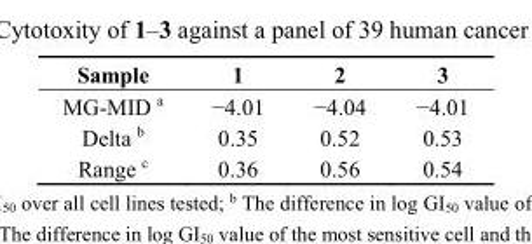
<table><thead><tr><td>Sample</td><td>1</td><td>2</td><td>3</td></tr></thead><tbody><tr><td>MG-MID <sup>a</sup></td><td>−4.01</td><td>−4.04</td><td>−4.01</td></tr><tr><td>Delta <sup>b</sup></td><td>0.35</td><td>0.52</td><td>0.53</td></tr><tr><td>Range <sup>c</sup></td><td>0.36</td><td>0.56</td><td>0.54</td></tr></tbody></table>